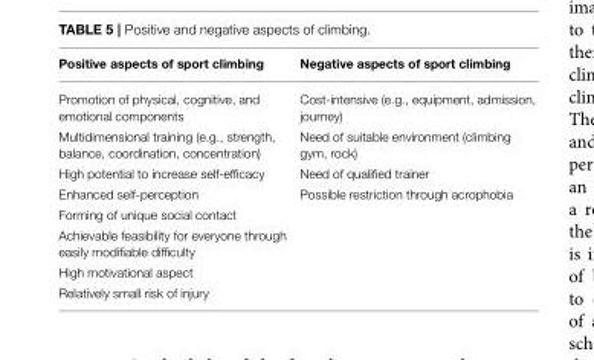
<table><thead><tr><td>Positive aspects of sport climbing</td><td>Negative aspects of sport climbing</td></tr></thead><tbody><tr><td>Promotion of physical, cognitive, and emotional components</td><td>Cost-intensive (e.g., equipment, admission, journey)</td></tr><tr><td>Multidimensional training (e.g., strength, balance, coordination, concentration)</td><td>Need of suitable environment (climbing gym, rock)</td></tr><tr><td>High potential to increase self-efficacy</td><td>Need of qualified trainer</td></tr><tr><td>Enhanced self-perception</td><td>Possible restriction through acrophobia</td></tr><tr><td colspan="2">Forming of unique social contact</td></tr><tr><td colspan="2">Achievable feasibility for everyone through easily modifiable difficulty</td></tr><tr><td colspan="2">High motivational aspect</td></tr><tr><td>Relatively small risk of injury</td><td></td></tr></tbody></table>